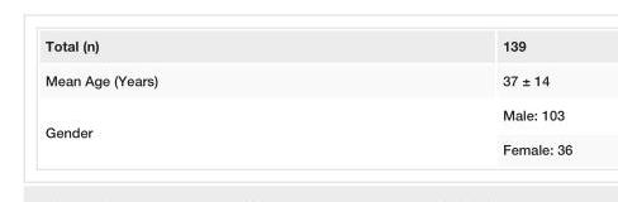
<table><tbody><tr><td>Total (n)</td><td>139</td></tr><tr><td>Mean Age (Years)</td><td>37 ± 14</td></tr><tr><td rowspan="2">Gender</td><td>Male: 103</td></tr><tr><td>Female: 36</td></tr></tbody></table>